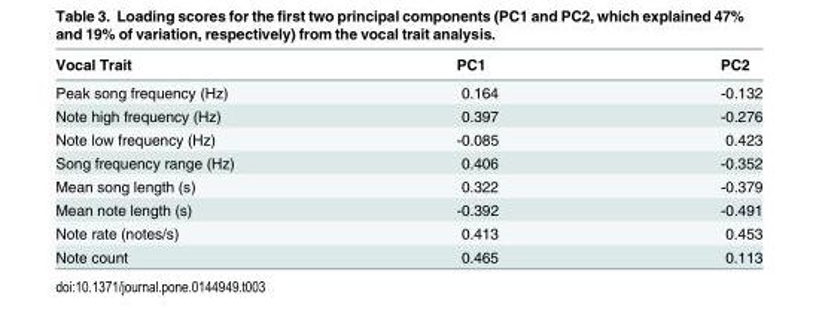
<table><thead><tr><td>Vocal Trait</td><td>PC1</td><td>PC2</td></tr></thead><tbody><tr><td>Peak song frequency (Hz)</td><td>0.164</td><td>-0.132</td></tr><tr><td>Note high frequency (Hz)</td><td>0.397</td><td>-0.276</td></tr><tr><td>Note low frequency (Hz)</td><td>-0.085</td><td>0.423</td></tr><tr><td>Song frequency range (Hz)</td><td>0.406</td><td>-0.352</td></tr><tr><td>Mean song length (s)</td><td>0.322</td><td>-0.379</td></tr><tr><td>Mean note length (s)</td><td>-0.392</td><td>-0.491</td></tr><tr><td>Note rate (notes/s)</td><td>0.413</td><td>0.453</td></tr><tr><td>Note count</td><td>0.465</td><td>0.113</td></tr></tbody></table>